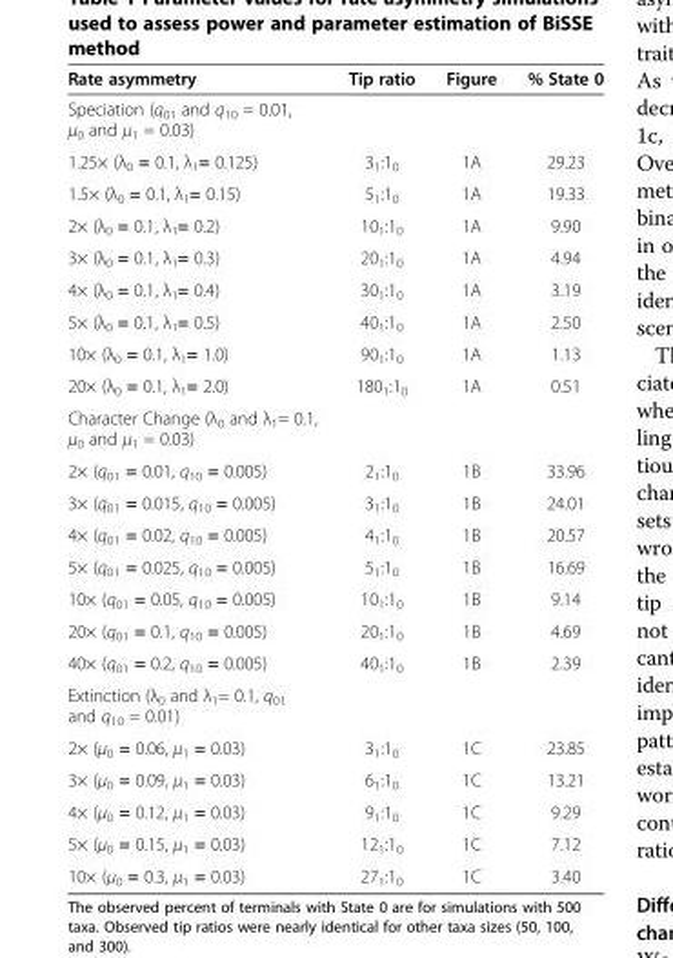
<table><thead><tr><td>Rate asymmetry</td><td>Tip ratio</td><td>Figure</td><td>% State 0</td></tr></thead><tbody><tr><td colspan="4">Speciation (q<sub>01</sub> and q<sub>10</sub> = 0.01, μ<sub>0</sub> and μ<sub>1</sub> = 0.03)</td></tr><tr><td>1.25× (λ<sub>0</sub> = 0.1, λ<sub>1</sub>= 0.125)</td><td>3<sub>1</sub>:1<sub>0</sub></td><td>1A</td><td>29.23</td></tr><tr><td>1.5× (λ<sub>0</sub> = 0.1, λ<sub>1</sub>= 0.15)</td><td>5<sub>1</sub>:1<sub>0</sub></td><td>1A</td><td>19.33</td></tr><tr><td>2× (λ<sub>0</sub> = 0.1, λ<sub>1</sub>= 0.2)</td><td>10<sub>1</sub>:1<sub>0</sub></td><td>1A</td><td>9.90</td></tr><tr><td>3× (λ<sub>0</sub> = 0.1, λ<sub>1</sub>= 0.3)</td><td>20<sub>1</sub>:1<sub>0</sub></td><td>1A</td><td>4.94</td></tr><tr><td>4× (λ<sub>0</sub> = 0.1, λ<sub>1</sub>= 0.4)</td><td>30<sub>1</sub>:1<sub>0</sub></td><td>1A</td><td>3.19</td></tr><tr><td>5× (λ<sub>0</sub> = 0.1, λ<sub>1</sub>= 0.5)</td><td>40<sub>1</sub>:1<sub>0</sub></td><td>1A</td><td>2.50</td></tr><tr><td>10× (λ<sub>0</sub> = 0.1, λ<sub>1</sub>= 1.0)</td><td>90<sub>1</sub>:1<sub>0</sub></td><td>1A</td><td>1.13</td></tr><tr><td>20× (λ<sub>0</sub> = 0.1, λ<sub>1</sub>= 2.0)</td><td>180<sub>1</sub>:1<sub>0</sub></td><td>1A</td><td>0.51</td></tr><tr><td colspan="4">Character Change (λ<sub>0</sub> and λ<sub>1</sub>= 0.1, μ<sub>0</sub> and μ<sub>1</sub> = 0.03)</td></tr><tr><td>2× (q<sub>01</sub> = 0.01, q<sub>10</sub> = 0.005)</td><td>2<sub>1</sub>:1<sub>0</sub></td><td>1B</td><td>33.96</td></tr><tr><td>3× (q<sub>01</sub> = 0.015, q<sub>10</sub> = 0.005)</td><td>3<sub>1</sub>:1<sub>0</sub></td><td>1B</td><td>24.01</td></tr><tr><td>4× (q<sub>01</sub> = 0.02, q<sub>10</sub> = 0.005)</td><td>4<sub>1</sub>:1<sub>0</sub></td><td>1B</td><td>20.57</td></tr><tr><td>5× (q<sub>01</sub> = 0.025, q<sub>10</sub> = 0.005)</td><td>5<sub>1</sub>:1<sub>0</sub></td><td>1B</td><td>16.69</td></tr><tr><td>10× (q<sub>01</sub> = 0.05, q<sub>10</sub> = 0.005)</td><td>10<sub>1</sub>:1<sub>0</sub></td><td>1B</td><td>9.14</td></tr><tr><td>20× (q<sub>01</sub> = 0.1, q<sub>10</sub> = 0.005)</td><td>20<sub>1</sub>:1<sub>0</sub></td><td>1B</td><td>4.69</td></tr><tr><td>40× (q<sub>01</sub> = 0.2, q<sub>10</sub> = 0.005)</td><td>40<sub>1</sub>:1<sub>0</sub></td><td>1B</td><td>2.39</td></tr><tr><td colspan="4">Extinction (λ<sub>0</sub> and λ<sub>1</sub>= 0.1, q<sub>01</sub> and q<sub>10</sub> = 0.01)</td></tr><tr><td>2× (μ<sub>0</sub> = 0.06, μ<sub>1</sub> = 0.03)</td><td>3<sub>1</sub>:1<sub>0</sub></td><td>1C</td><td>23.85</td></tr><tr><td>3× (μ<sub>0</sub> = 0.09, μ<sub>1</sub> = 0.03)</td><td>6<sub>1</sub>:1<sub>0</sub></td><td>1C</td><td>13.21</td></tr><tr><td>4× (μ<sub>0</sub> = 0.12, μ<sub>1</sub> = 0.03)</td><td>9<sub>1</sub>:1<sub>0</sub></td><td>1C</td><td>9.29</td></tr><tr><td>5× (μ<sub>0</sub> = 0.15, μ<sub>1</sub> = 0.03)</td><td>12<sub>1</sub>:1<sub>0</sub></td><td>1C</td><td>7.12</td></tr><tr><td>10× (μ<sub>0</sub> = 0.3, μ<sub>1</sub> = 0.03)</td><td>27<sub>1</sub>:1<sub>0</sub></td><td>1C</td><td>3.40</td></tr></tbody></table>